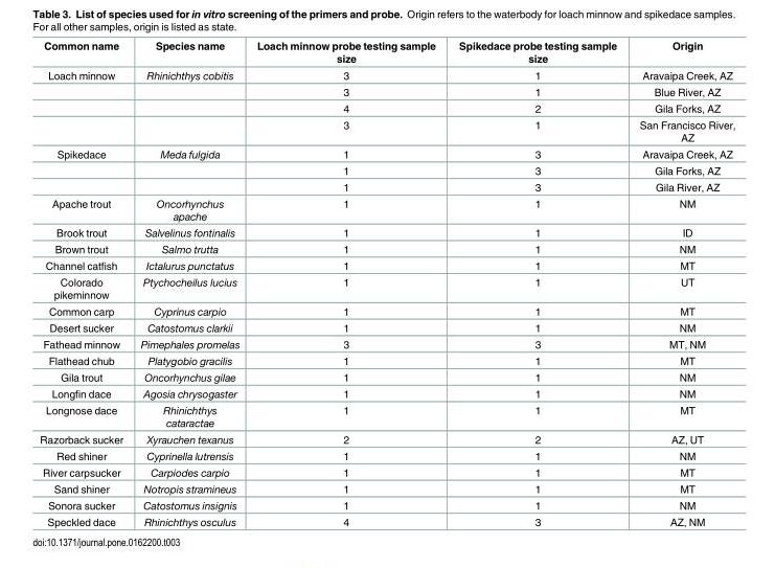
<table><thead><tr><td>Common name</td><td>Species name</td><td>Loach minnow probe testing sample size</td><td>Spikedace probe testing sample size</td><td>Origin</td></tr></thead><tbody><tr><td rowspan="4">Loach minnow</td><td>Rhinichthys cobitis</td><td>3</td><td>1</td><td>Aravaipa Creek, AZ</td></tr><tr><td></td><td>3</td><td>1</td><td>Blue River, AZ</td></tr><tr><td></td><td>4</td><td>2</td><td>Gila Forks, AZ</td></tr><tr><td></td><td>3</td><td>1</td><td>San Francisco River, AZ</td></tr><tr><td rowspan="3">Spikedace</td><td>Meda fulgida</td><td>1</td><td>3</td><td>Aravaipa Creek, AZ</td></tr><tr><td></td><td>1</td><td>3</td><td>Gila Forks, AZ</td></tr><tr><td></td><td>1</td><td>3</td><td>Gila River, AZ</td></tr><tr><td>Apache trout</td><td>Oncorhynchus apache</td><td>1</td><td>1</td><td>NM</td></tr><tr><td>Brook trout</td><td>Salvelinus fontinalis</td><td>1</td><td>1</td><td>ID</td></tr><tr><td>Brown trout</td><td>Salmo trutta</td><td>1</td><td>1</td><td>NM</td></tr><tr><td>Channel catfish</td><td>Ictalurus punctatus</td><td>1</td><td>1</td><td>MT</td></tr><tr><td>Colorado pikeminnow</td><td>Ptychocheilus lucius</td><td>1</td><td>1</td><td>UT</td></tr><tr><td>Common carp</td><td>Cyprinus carpio</td><td>1</td><td>1</td><td>MT</td></tr><tr><td>Desert sucker</td><td>Catostomus clarkii</td><td>1</td><td>1</td><td>NM</td></tr><tr><td>Fathead minnow</td><td>Pimephales promelas</td><td>3</td><td>3</td><td>MT, NM</td></tr><tr><td>Flathead chub</td><td>Platygobio gracilis</td><td>1</td><td>1</td><td>MT</td></tr><tr><td>Gila trout</td><td>Oncorhynchus gilae</td><td>1</td><td>1</td><td>NM</td></tr><tr><td>Longfin dace</td><td>Agosia chrysogaster</td><td>1</td><td>1</td><td>NM</td></tr><tr><td>Longnose dace</td><td>Rhinichthys cataractae</td><td>1</td><td>1</td><td>MT</td></tr><tr><td>Razorback sucker</td><td>Xyrauchen texanus</td><td>2</td><td>2</td><td>AZ, UT</td></tr><tr><td>Red shiner</td><td>Cyprinella lutrensis</td><td>1</td><td>1</td><td>NM</td></tr><tr><td>River carpsucker</td><td>Carpiodes carpio</td><td>1</td><td>1</td><td>MT</td></tr><tr><td>Sand shiner</td><td>Notropis stramineus</td><td>1</td><td>1</td><td>MT</td></tr><tr><td>Sonora sucker</td><td>Catostomus insignis</td><td>1</td><td>1</td><td>NM</td></tr><tr><td>Speckled dace</td><td>Rhinichthys osculus</td><td>4</td><td>3</td><td>AZ, NM</td></tr></tbody></table>